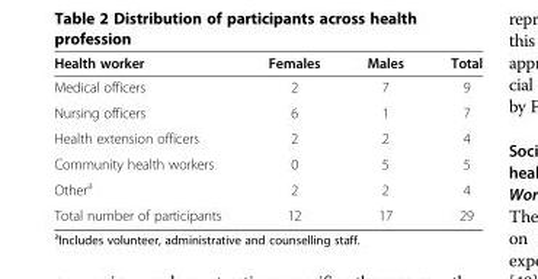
<table><thead><tr><td>Health worker</td><td>Females</td><td>Males</td><td>Total</td></tr></thead><tbody><tr><td>Medical officers</td><td>2</td><td>7</td><td>9</td></tr><tr><td>Nursing officers</td><td>6</td><td>1</td><td>7</td></tr><tr><td>Health extension officers</td><td>2</td><td>2</td><td>4</td></tr><tr><td>Community health workers</td><td>0</td><td>5</td><td>5</td></tr><tr><td>Other<sup>a</sup></td><td>2</td><td>2</td><td>4</td></tr><tr><td>Total number of participants</td><td>12</td><td>17</td><td>29</td></tr></tbody></table>